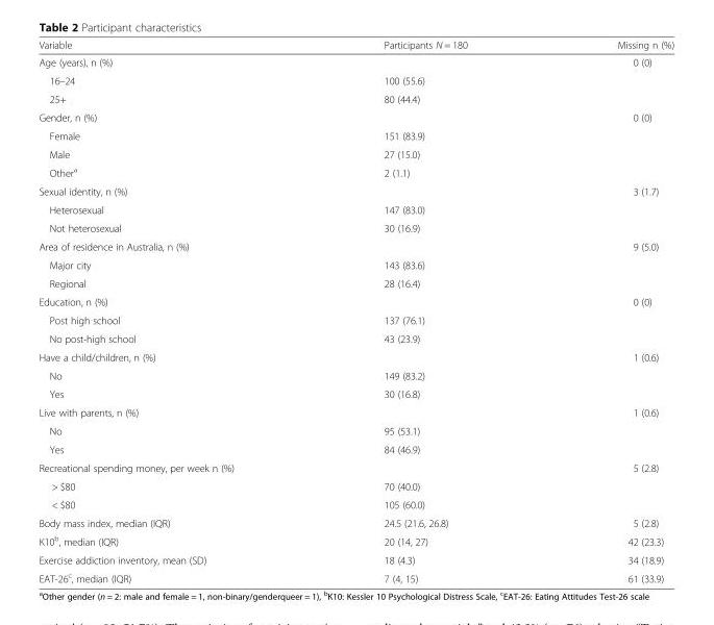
<table><thead><tr><td>Variable</td><td>Participants N = 180</td><td>Missing n (%)</td></tr></thead><tbody><tr><td>Age (years), n (%)</td><td></td><td>0 (0)</td></tr><tr><td>16–24</td><td>100 (55.6)</td><td></td></tr><tr><td>25+</td><td>80 (44.4)</td><td></td></tr><tr><td>Gender, n (%)</td><td></td><td>0 (0)</td></tr><tr><td>Female</td><td>151 (83.9)</td><td></td></tr><tr><td>Male</td><td>27 (15.0)</td><td></td></tr><tr><td>Other<sup>a</sup></td><td>2 (1.1)</td><td></td></tr><tr><td>Sexual identity, n (%)</td><td></td><td>3 (1.7)</td></tr><tr><td>Heterosexual</td><td>147 (83.0)</td><td></td></tr><tr><td>Not heterosexual</td><td>30 (16.9)</td><td></td></tr><tr><td>Area of residence in Australia, n (%)</td><td></td><td>9 (5.0)</td></tr><tr><td>Major city</td><td>143 (83.6)</td><td></td></tr><tr><td>Regional</td><td>28 (16.4)</td><td></td></tr><tr><td>Education, n (%)</td><td></td><td>0 (0)</td></tr><tr><td>Post high school</td><td>137 (76.1)</td><td></td></tr><tr><td>No post-high school</td><td>43 (23.9)</td><td></td></tr><tr><td>Have a child/children, n (%)</td><td></td><td>1 (0.6)</td></tr><tr><td>No</td><td>149 (83.2)</td><td></td></tr><tr><td>Yes</td><td>30 (16.8)</td><td></td></tr><tr><td>Live with parents, n (%)</td><td></td><td>1 (0.6)</td></tr><tr><td>No</td><td>95 (53.1)</td><td></td></tr><tr><td>Yes</td><td>84 (46.9)</td><td></td></tr><tr><td>Recreational spending money, per week n (%)</td><td></td><td>5 (2.8)</td></tr><tr><td>&gt; $80</td><td>70 (40.0)</td><td></td></tr><tr><td>&lt; $80</td><td>105 (60.0)</td><td></td></tr><tr><td>Body mass index, median (IQR)</td><td>24.5 (21.6, 26.8)</td><td>5 (2.8)</td></tr><tr><td>K10<sup>b</sup>, median (IQR)</td><td>20 (14, 27)</td><td>42 (23.3)</td></tr><tr><td>Exercise addiction inventory, mean (SD)</td><td>18 (4.3)</td><td>34 (18.9)</td></tr><tr><td>EAT-26<sup>c</sup>, median (IQR)</td><td>7 (4, 15)</td><td>61 (33.9)</td></tr></tbody></table>